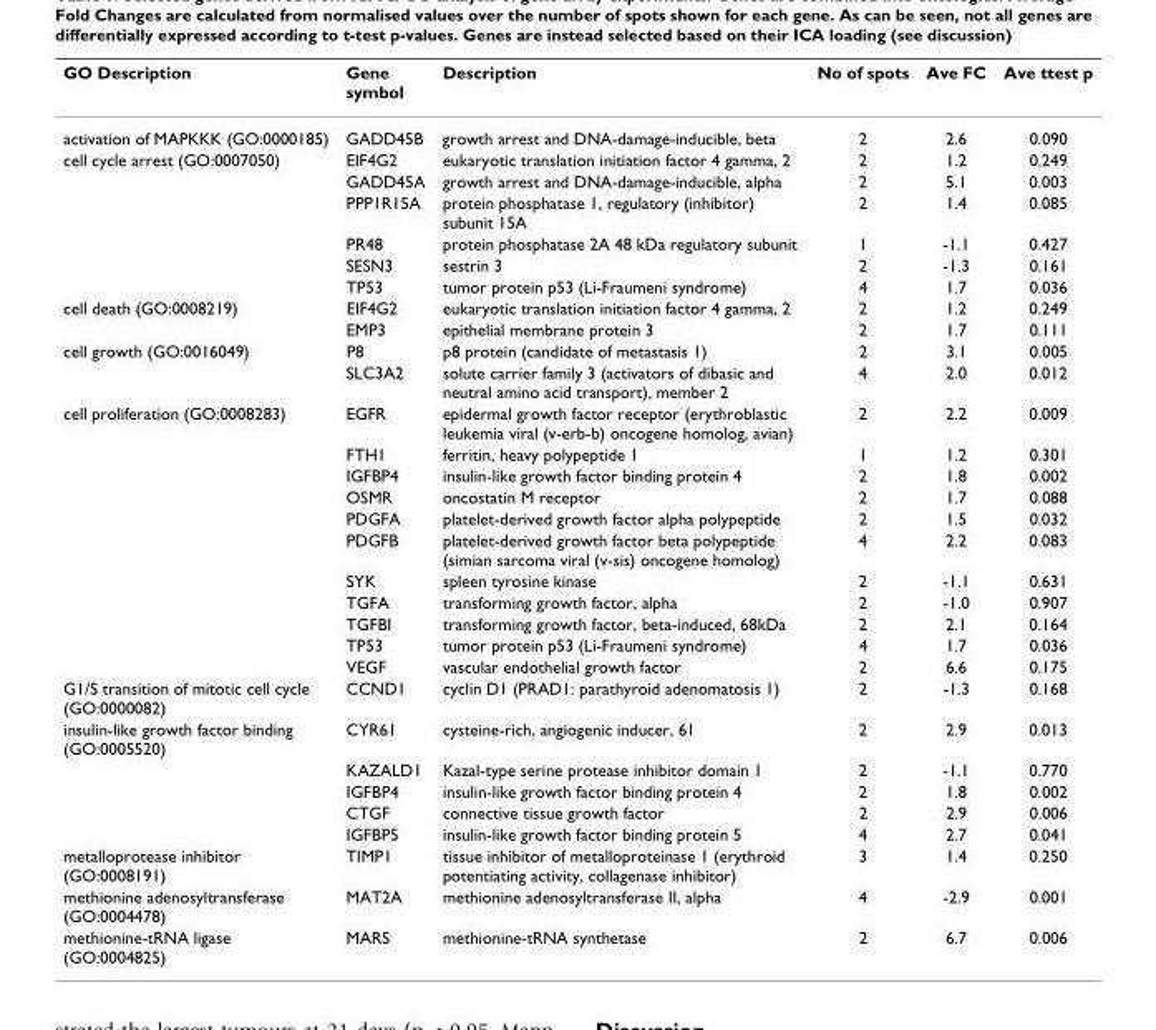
<table><thead><tr><td>GO Description</td><td>Gene symbol</td><td>Description</td><td>No of spots</td><td>Ave FC</td><td>Ave ttest p</td></tr></thead><tbody><tr><td>activation of MAPKKK (GO:0000185)</td><td>GADD45B</td><td>growth arrest and DNA-damage-inducible, beta</td><td>2</td><td>2.6</td><td>0.090</td></tr><tr><td rowspan="6">cell cycle arrest (GO:0007050)</td><td>EIF4G2</td><td>eukaryotic translation initiation factor 4 gamma, 2</td><td>2</td><td>1.2</td><td>0.249</td></tr><tr><td>GADD45A</td><td>growth arrest and DNA-damage-inducible, alpha</td><td>2</td><td>5.1</td><td>0.003</td></tr><tr><td>PPP1R15A</td><td>protein phosphatase 1, regulatory (inhibitor) subunit 15A</td><td>2</td><td>1.4</td><td>0.085</td></tr><tr><td>PR48</td><td>protein phosphatase 2A 48 kDa regulatory subunit</td><td>1</td><td>-1.1</td><td>0.427</td></tr><tr><td>SESN3</td><td>sestrin 3</td><td>2</td><td>-1.3</td><td>0.161</td></tr><tr><td>TP53</td><td>tumor protein p53 (Li-Fraumeni syndrome)</td><td>4</td><td>1.7</td><td>0.036</td></tr><tr><td rowspan="2">cell death (GO:0008219)</td><td>EIF4G2</td><td>eukaryotic translation initiation factor 4 gamma, 2</td><td>2</td><td>1.2</td><td>0.249</td></tr><tr><td>EMP3</td><td>epithelial membrane protein 3</td><td>2</td><td>1.7</td><td>0.111</td></tr><tr><td rowspan="2">cell growth (GO:0016049)</td><td>P8</td><td>p8 protein (candidate of metastasis 1)</td><td>2</td><td>3.1</td><td>0.005</td></tr><tr><td>SLC3A2</td><td>solute carrier family 3 (activators of dibasic and neutral amino acid transport), member 2</td><td>4</td><td>2.0</td><td>0.012</td></tr><tr><td rowspan="11">cell proliferation (GO:0008283)</td><td>EGFR</td><td>epidermal growth factor receptor (erythroblastic leukemia viral (v-erb-b) oncogene homolog, avian)</td><td>2</td><td>2.2</td><td>0.009</td></tr><tr><td>FTH1</td><td>ferritin, heavy polypeptide 1</td><td>1</td><td>1.2</td><td>0.301</td></tr><tr><td>IGFBP4</td><td>insulin-like growth factor binding protein 4</td><td>2</td><td>1.8</td><td>0.002</td></tr><tr><td>OSMR</td><td>oncostatin M receptor</td><td>2</td><td>1.7</td><td>0.088</td></tr><tr><td>PDGFA</td><td>platelet-derived growth factor alpha polypeptide</td><td>2</td><td>1.5</td><td>0.032</td></tr><tr><td>PDGFB</td><td>platelet-derived growth factor beta polypeptide (simian sarcoma viral (v-sis) oncogene homolog)</td><td>4</td><td>2.2</td><td>0.083</td></tr><tr><td>SYK</td><td>spleen tyrosine kinase</td><td>2</td><td>-1.1</td><td>0.631</td></tr><tr><td>TGFA</td><td>transforming growth factor, alpha</td><td>2</td><td>-1.0</td><td>0.907</td></tr><tr><td>TGFBI</td><td>transforming growth factor, beta-induced, 68kDa</td><td>2</td><td>2.1</td><td>0.164</td></tr><tr><td>TP53</td><td>tumor protein p53 (Li-Fraumeni syndrome)</td><td>4</td><td>1.7</td><td>0.036</td></tr><tr><td>VEGF</td><td>vascular endothelial growth factor</td><td>2</td><td>6.6</td><td>0.175</td></tr><tr><td>G1/S transition of mitotic cell cycle (GO:0000082)</td><td>CCND1</td><td>cyclin D1 (PRAD1: parathyroid adenomatosis 1)</td><td>2</td><td>-1.3</td><td>0.168</td></tr><tr><td rowspan="5">insulin-like growth factor binding (GO:0005520)</td><td>CYR61</td><td>cysteine-rich, angiogenic inducer, 61</td><td>2</td><td>2.9</td><td>0.013</td></tr><tr><td>KAZALD1</td><td>Kazal-type serine protease inhibitor domain 1</td><td>2</td><td>-1.1</td><td>0.770</td></tr><tr><td>IGFBP4</td><td>insulin-like growth factor binding protein 4</td><td>2</td><td>1.8</td><td>0.002</td></tr><tr><td>CTGF</td><td>connective tissue growth factor</td><td>2</td><td>2.9</td><td>0.006</td></tr><tr><td>IGFBP5</td><td>insulin-like growth factor binding protein 5</td><td>4</td><td>2.7</td><td>0.041</td></tr><tr><td>metalloprotease inhibitor (GO:0008191)</td><td>TIMP1</td><td>tissue inhibitor of metalloproteinase 1 (erythroid potentiating activity, collagenase inhibitor)</td><td>3</td><td>1.4</td><td>0.250</td></tr><tr><td>methionine adenosyltransferase (GO:0004478)</td><td>MAT2A</td><td>methionine adenosyltransferase II, alpha</td><td>4</td><td>-2.9</td><td>0.001</td></tr><tr><td>methionine-tRNA ligase (GO:0004825)</td><td>MARS</td><td>methionine-tRNA synthetase</td><td>2</td><td>6.7</td><td>0.006</td></tr></tbody></table>